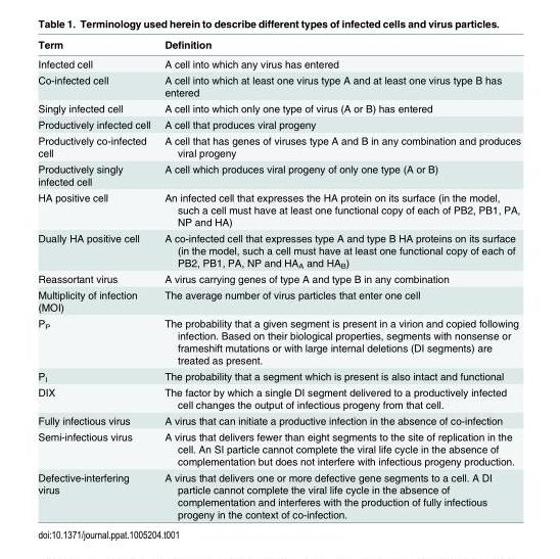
<table><thead><tr><td>Term</td><td>Definition</td></tr></thead><tbody><tr><td>Infected cell</td><td>A cell into which any virus has entered</td></tr><tr><td>Co-infected cell</td><td>A cell into which at least one virus type A and at least one virus type B has entered</td></tr><tr><td>Singly infected cell</td><td>A cell into which only one type of virus (A or B) has entered</td></tr><tr><td>Productively infected cell</td><td>A cell that produces viral progeny</td></tr><tr><td>Productively co-infected cell</td><td>A cell that has genes of viruses type A and B in any combination and produces viral progeny</td></tr><tr><td>Productively singly infected cell</td><td>A cell which produces viral progeny of only one type (A or B)</td></tr><tr><td>HA positive cell</td><td>An infected cell that expresses the HA protein on its surface (in the model, such a cell must have at least one functional copy of each of PB2, PB1, PA, NP and HA)</td></tr><tr><td>Dually HA positive cell</td><td>A co-infected cell that expresses type A and type B HA proteins on its surface (in the model, such a cell must have at least one functional copy of each of PB2, PB1, PA, NP and HA<sub>A</sub> and HA<sub>B</sub>)</td></tr><tr><td>Reassortant virus</td><td>A virus carrying genes of type A and type B in any combination</td></tr><tr><td>Multiplicity of infection (MOI)</td><td>The average number of virus particles that enter one cell</td></tr><tr><td>P<sub>P</sub></td><td>The probability that a given segment is present in a virion and copied following infection. Based on their biological properties, segments with nonsense or frameshift mutations or with large internal deletions (DI segments) are treated as present.</td></tr><tr><td>P<sub>I</sub></td><td>The probability that a segment which is present is also intact and functional</td></tr><tr><td>DIX</td><td>The factor by which a single DI segment delivered to a productively infected cell changes the output of infectious progeny from that cell.</td></tr><tr><td>Fully infectious virus</td><td>A virus that can initiate a productive infection in the absence of co-infection</td></tr><tr><td>Semi-infectious virus</td><td>A virus that delivers fewer than eight segments to the site of replication in the cell. An SI particle cannot complete the viral life cycle in the absence of complementation but does not interfere with infectious progeny production.</td></tr><tr><td>Defective-interfering virus</td><td>A virus that delivers one or more defective gene segments to a cell. A DI particle cannot complete the viral life cycle in the absence of complementation and interferes with the production of fully infectious progeny in the context of co-infection.</td></tr></tbody></table>